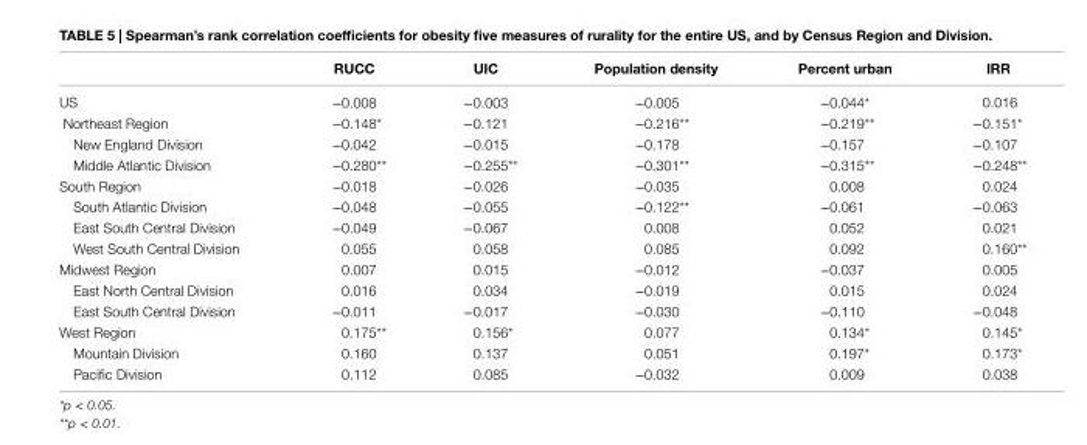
<table><thead><tr><td></td><td>rUcc</td><td>Uic</td><td>Population density</td><td>Percent urban</td><td>irr</td></tr></thead><tbody><tr><td>US</td><td>−0.008</td><td>−0.003</td><td>−0.005</td><td>−0.044*</td><td>0.016</td></tr><tr><td>Northeast Region</td><td>−0.148*</td><td>−0.121</td><td>−0.216**</td><td>−0.219**</td><td>−0.151*</td></tr><tr><td>New England Division</td><td>−0.042</td><td>−0.015</td><td>−0.178</td><td>−0.157</td><td>−0.107</td></tr><tr><td>Middle Atlantic Division</td><td>−0.280**</td><td>−0.255**</td><td>−0.301**</td><td>−0.315**</td><td>−0.248**</td></tr><tr><td>South Region</td><td>−0.018</td><td>−0.026</td><td>−0.035</td><td>0.008</td><td>0.024</td></tr><tr><td>South Atlantic Division</td><td>−0.048</td><td>−0.055</td><td>−0.122**</td><td>−0.061</td><td>−0.063</td></tr><tr><td>East South Central Division</td><td>−0.049</td><td>−0.067</td><td>0.008</td><td>0.052</td><td>0.021</td></tr><tr><td>West South Central Division</td><td>0.055</td><td>0.058</td><td>0.085</td><td>0.092</td><td>0.160**</td></tr><tr><td>Midwest Region</td><td>0.007</td><td>0.015</td><td>−0.012</td><td>−0.037</td><td>0.005</td></tr><tr><td>East North Central Division</td><td>0.016</td><td>0.034</td><td>−0.019</td><td>0.015</td><td>0.024</td></tr><tr><td>East South Central Division</td><td>−0.011</td><td>−0.017</td><td>−0.030</td><td>−0.110</td><td>−0.048</td></tr><tr><td>West Region</td><td>0.175**</td><td>0.156*</td><td>0.077</td><td>0.134*</td><td>0.145*</td></tr><tr><td>Mountain Division</td><td>0.160</td><td>0.137</td><td>0.051</td><td>0.197*</td><td>0.173*</td></tr><tr><td>Pacific Division</td><td>0.112</td><td>0.085</td><td>−0.032</td><td>0.009</td><td>0.038</td></tr></tbody></table>